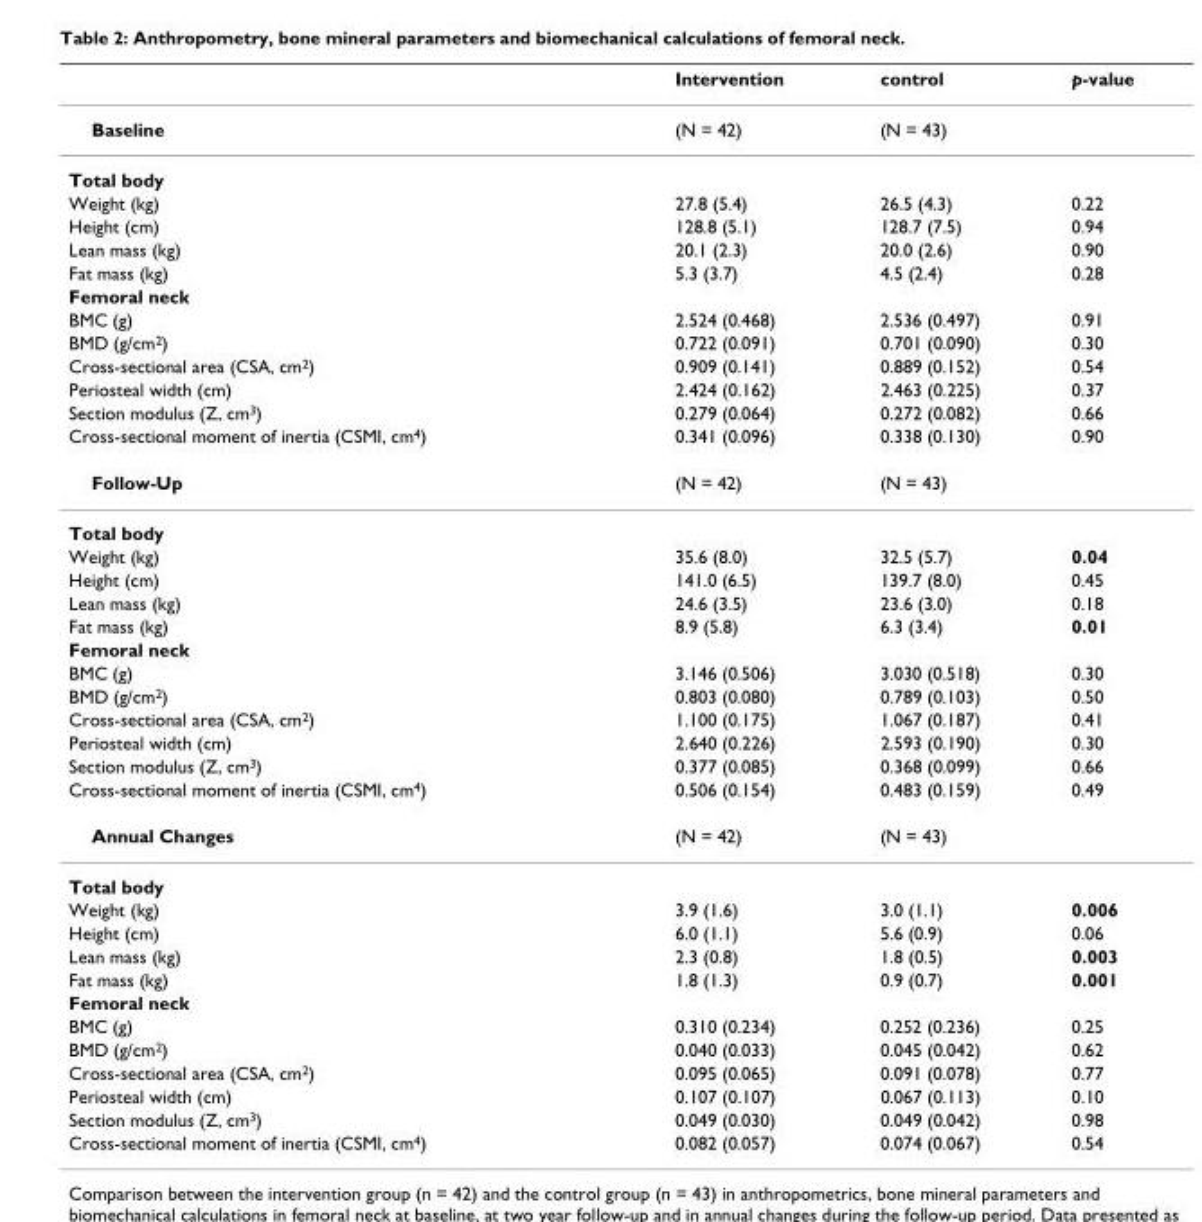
<table><thead><tr><td></td><td>Intervention</td><td>control</td><td>p-value</td></tr></thead><tbody><tr><td>Baseline</td><td>(N = 42)</td><td>(N = 43)</td><td></td></tr><tr><td colspan="4">Total body</td></tr><tr><td>Weight (kg)</td><td>27.8 (5.4)</td><td>26.5 (4.3)</td><td>0.22</td></tr><tr><td>Height (cm)</td><td>128.8 (5.1)</td><td>128.7 (7.5)</td><td>0.94</td></tr><tr><td>Lean mass (kg)</td><td>20.1 (2.3)</td><td>20.0 (2.6)</td><td>0.90</td></tr><tr><td>Fat mass (kg)</td><td>5.3 (3.7)</td><td>4.5 (2.4)</td><td>0.28</td></tr><tr><td colspan="4">Femoral neck</td></tr><tr><td>BMC (g)</td><td>2.524 (0.468)</td><td>2.536 (0.497)</td><td>0.91</td></tr><tr><td>BMD (g/cm<sup>2</sup>)</td><td>0.722 (0.091)</td><td>0.701 (0.090)</td><td>0.30</td></tr><tr><td>Cross-sectional area (CSA, cm<sup>2</sup>)</td><td>0.909 (0.141)</td><td>0.889 (0.152)</td><td>0.54</td></tr><tr><td>Periosteal width (cm)</td><td>2.424 (0.162)</td><td>2.463 (0.225)</td><td>0.37</td></tr><tr><td>Section modulus (Z, cm<sup>3</sup>)</td><td>0.279 (0.064)</td><td>0.272 (0.082)</td><td>0.66</td></tr><tr><td>Cross-sectional moment of inertia (CSMI, cm<sup>4</sup>)</td><td>0.341 (0.096)</td><td>0.338 (0.130)</td><td>0.90</td></tr><tr><td>Follow-Up</td><td>(N = 42)</td><td>(N = 43)</td><td></td></tr><tr><td colspan="4">Total body</td></tr><tr><td>Weight (kg)</td><td>35.6 (8.0)</td><td>32.5 (5.7)</td><td>0.04</td></tr><tr><td>Height (cm)</td><td>141.0 (6.5)</td><td>139.7 (8.0)</td><td>0.45</td></tr><tr><td>Lean mass (kg)</td><td>24.6 (3.5)</td><td>23.6 (3.0)</td><td>0.18</td></tr><tr><td>Fat mass (kg)</td><td>8.9 (5.8)</td><td>6.3 (3.4)</td><td>0.01</td></tr><tr><td colspan="4">Femoral neck</td></tr><tr><td>BMC (g)</td><td>3.146 (0.506)</td><td>3.030 (0.518)</td><td>0.30</td></tr><tr><td>BMD (g/cm<sup>2</sup>)</td><td>0.803 (0.080)</td><td>0.789 (0.103)</td><td>0.50</td></tr><tr><td>Cross-sectional area (CSA, cm<sup>2</sup>)</td><td>1.100 (0.175)</td><td>1.067 (0.187)</td><td>0.41</td></tr><tr><td>Periosteal width (cm)</td><td>2.640 (0.226)</td><td>2.593 (0.190)</td><td>0.30</td></tr><tr><td>Section modulus (Z, cm<sup>3</sup>)</td><td>0.377 (0.085)</td><td>0.368 (0.099)</td><td>0.66</td></tr><tr><td>Cross-sectional moment of inertia (CSMI, cm<sup>4</sup>)</td><td>0.506 (0.154)</td><td>0.483 (0.159)</td><td>0.49</td></tr><tr><td>Annual Changes</td><td>(N = 42)</td><td>(N = 43)</td><td></td></tr><tr><td colspan="4">Total body</td></tr><tr><td>Weight (kg)</td><td>3.9 (1.6)</td><td>3.0 (1.1)</td><td>0.006</td></tr><tr><td>Height (cm)</td><td>6.0 (1.1)</td><td>5.6 (0.9)</td><td>0.06</td></tr><tr><td>Lean mass (kg)</td><td>2.3 (0.8)</td><td>1.8 (0.5)</td><td>0.003</td></tr><tr><td>Fat mass (kg)</td><td>1.8 (1.3)</td><td>0.9 (0.7)</td><td>0.001</td></tr><tr><td colspan="4">Femoral neck</td></tr><tr><td>BMC (g)</td><td>0.310 (0.234)</td><td>0.252 (0.236)</td><td>0.25</td></tr><tr><td>BMD (g/cm<sup>2</sup>)</td><td>0.040 (0.033)</td><td>0.045 (0.042)</td><td>0.62</td></tr><tr><td>Cross-sectional area (CSA, cm<sup>2</sup>)</td><td>0.095 (0.065)</td><td>0.091 (0.078)</td><td>0.77</td></tr><tr><td>Periosteal width (cm)</td><td>0.107 (0.107)</td><td>0.067 (0.113)</td><td>0.10</td></tr><tr><td>Section modulus (Z, cm<sup>3</sup>)</td><td>0.049 (0.030)</td><td>0.049 (0.042)</td><td>0.98</td></tr><tr><td>Cross-sectional moment of inertia (CSMI, cm<sup>4</sup>)</td><td>0.082 (0.057)</td><td>0.074 (0.067)</td><td>0.54</td></tr></tbody></table>